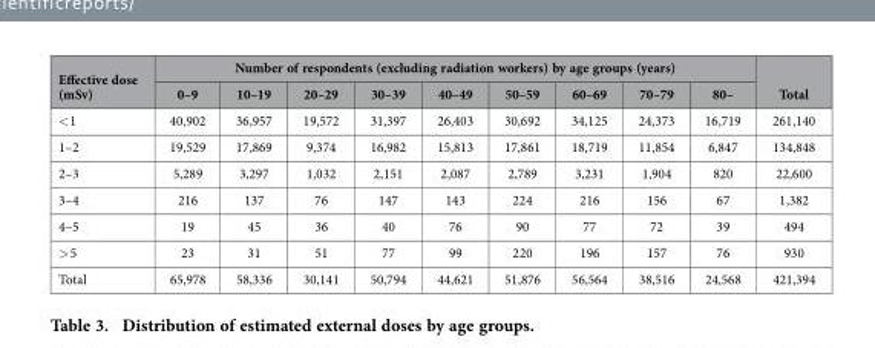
<table><thead><tr><td rowspan="2">Effective dose (mSv)</td><td colspan="9">Number of respondents (excluding radiation workers) by age groups (years)</td><td rowspan="2">Total</td></tr><tr><td>0–9</td><td>10–19</td><td>20–29</td><td>30–39</td><td>40–49</td><td>50–59</td><td>60–69</td><td>70–79</td><td>80–</td></tr></thead><tbody><tr><td>&lt; 1</td><td>40,902</td><td>36,957</td><td>19,572</td><td>31,397</td><td>26,403</td><td>30,692</td><td>34,125</td><td>24,373</td><td>16,719</td><td>261,140</td></tr><tr><td>1–2</td><td>19,529</td><td>17,869</td><td>9,374</td><td>16,982</td><td>15,813</td><td>17,861</td><td>18,719</td><td>11,854</td><td>6,847</td><td>134,848</td></tr><tr><td>2–3</td><td>5,289</td><td>3,297</td><td>1,032</td><td>2,151</td><td>2,087</td><td>2,789</td><td>3,231</td><td>1,904</td><td>820</td><td>22,600</td></tr><tr><td>3–4</td><td>216</td><td>137</td><td>76</td><td>147</td><td>143</td><td>224</td><td>216</td><td>156</td><td>67</td><td>1,382</td></tr><tr><td>4–5</td><td>19</td><td>45</td><td>36</td><td>40</td><td>76</td><td>90</td><td>77</td><td>72</td><td>39</td><td>494</td></tr><tr><td>&gt; 5</td><td>23</td><td>31</td><td>51</td><td>77</td><td>99</td><td>220</td><td>196</td><td>157</td><td>76</td><td>930</td></tr><tr><td>Total</td><td>65,978</td><td>58,336</td><td>30,141</td><td>50,794</td><td>44,621</td><td>51,876</td><td>56,564</td><td>38,516</td><td>24,568</td><td>421,394</td></tr></tbody></table>